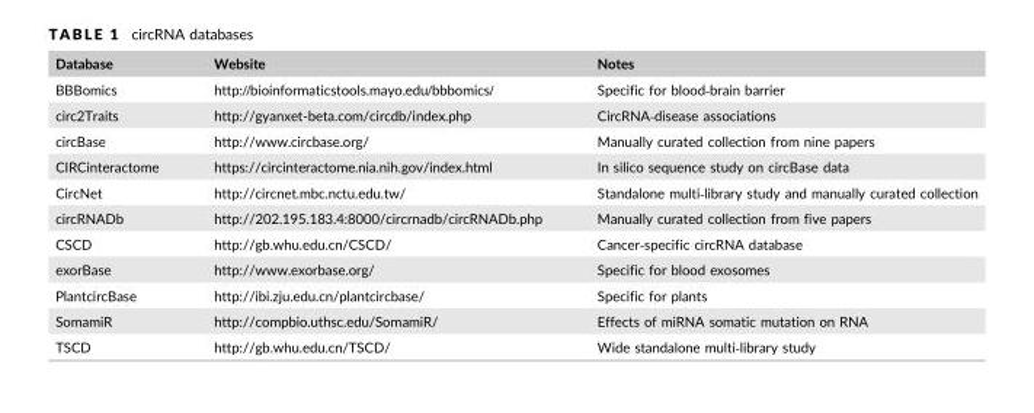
<table><thead><tr><td>Database</td><td>Website</td><td>Notes</td></tr></thead><tbody><tr><td>BBBomics</td><td>http://bioinformaticstools.mayo.edu/bbbomics/</td><td>Specific for blood‐brain barrier</td></tr><tr><td>circ2Traits</td><td>http://gyanxet-beta.com/circdb/index.php</td><td>CircRNA‐disease associations</td></tr><tr><td>circBase</td><td>http://www.circbase.org/</td><td>Manually curated collection from nine papers</td></tr><tr><td>CIRCinteractome</td><td>https://circinteractome.nia.nih.gov/index.html</td><td>In silico sequence study on circBase data</td></tr><tr><td>CircNet</td><td>http://circnet.mbc.nctu.edu.tw/</td><td>Standalone multi‐library study and manually curated collection</td></tr><tr><td>circRNADb</td><td>http://202.195.183.4:8000/circrnadb/circRNADb.php</td><td>Manually curated collection from five papers</td></tr><tr><td>CSCD</td><td>http://gb.whu.edu.cn/CSCD/</td><td>Cancer‐specific circRNA database</td></tr><tr><td>exorBase</td><td>http://www.exorbase.org/</td><td>Specific for blood exosomes</td></tr><tr><td>PlantcircBase</td><td>http://ibi.zju.edu.cn/plantcircbase/</td><td>Specific for plants</td></tr><tr><td>SomamiR</td><td>http://compbio.uthsc.edu/SomamiR/</td><td>Effects of miRNA somatic mutation on RNA</td></tr><tr><td>TSCD</td><td>http://gb.whu.edu.cn/TSCD/</td><td>Wide standalone multi‐library study</td></tr></tbody></table>